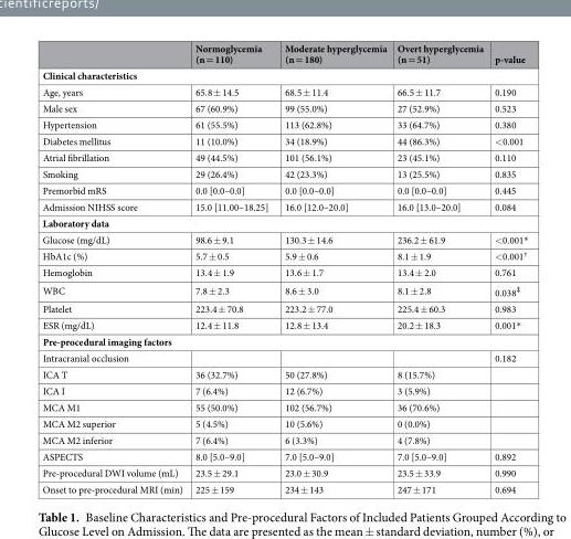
<table><thead><tr><td></td><td>Normoglycemia (n = 110)</td><td>Moderate hyperglycemia (n = 180)</td><td>Overt hyperglycemia (n = 51)</td><td>p-value</td></tr></thead><tbody><tr><td colspan="5">Clinical characteristics</td></tr><tr><td>Age, years</td><td>65.8 ± 14.5</td><td>68.5 ± 11.4</td><td>66.5 ± 11.7</td><td>0.190</td></tr><tr><td>Male sex</td><td>67 (60.9%)</td><td>99 (55.0%)</td><td>27 (52.9%)</td><td>0.523</td></tr><tr><td>Hypertension</td><td>61 (55.5%)</td><td>113 (62.8%)</td><td>33 (64.7%)</td><td>0.380</td></tr><tr><td>Diabetes mellitus</td><td>11 (10.0%)</td><td>34 (18.9%)</td><td>44 (86.3%)</td><td>&lt;0.001</td></tr><tr><td>Atrial fibrillation</td><td>49 (44.5%)</td><td>101 (56.1%)</td><td>23 (45.1%)</td><td>0.110</td></tr><tr><td>Smoking</td><td>29 (26.4%)</td><td>42 (23.3%)</td><td>13 (25.5%)</td><td>0.835</td></tr><tr><td>Premorbid mRS</td><td>0.0 [0.0–0.0]</td><td>0.0 [0.0–0.0]</td><td>0.0 [0.0–0.0]</td><td>0.445</td></tr><tr><td>Admission NIHSS score</td><td>15.0 [11.00–18.25]</td><td>16.0 [12.0–20.0]</td><td>16.0 [13.0–20.0]</td><td>0.084</td></tr><tr><td colspan="5">Laboratory data</td></tr><tr><td>Glucose (mg/dL)</td><td>98.6 ± 9.1</td><td>130.3 ± 14.6</td><td>236.2 ± 61.9</td><td>&lt;0.001*</td></tr><tr><td>HbA1c (%)</td><td>5.7 ± 0.5</td><td>5.9 ± 0.6</td><td>8.1 ± 1.9</td><td>&lt;0.001<sup>†</sup></td></tr><tr><td>Hemoglobin</td><td>13.4 ± 1.9</td><td>13.6 ± 1.7</td><td>13.4 ± 2.0</td><td>0.761</td></tr><tr><td>WBC</td><td>7.8 ± 2.3</td><td>8.6 ± 3.0</td><td>8.1 ± 2.8</td><td>0.038<sup>‡</sup></td></tr><tr><td>Platelet</td><td>223.4 ± 70.8</td><td>223.2 ± 77.0</td><td>225.4 ± 60.3</td><td>0.983</td></tr><tr><td>ESR (mg/dL)</td><td>12.4 ± 11.8</td><td>12.8 ± 13.4</td><td>20.2 ± 18.3</td><td>0.001*</td></tr><tr><td colspan="5">Pre-procedural imaging factors</td></tr><tr><td>Intracranial occlusion</td><td></td><td></td><td></td><td>0.182</td></tr><tr><td>ICA T</td><td>36 (32.7%)</td><td>50 (27.8%)</td><td>8 (15.7%)</td><td></td></tr><tr><td>ICA I</td><td>7 (6.4%)</td><td>12 (6.7%)</td><td>3 (5.9%)</td><td></td></tr><tr><td>MCA M1</td><td>55 (50.0%)</td><td>102 (56.7%)</td><td>36 (70.6%)</td><td></td></tr><tr><td>MCA M2 superior</td><td>5 (4.5%)</td><td>10 (5.6%)</td><td>0 (0.0%)</td><td></td></tr><tr><td>MCA M2 inferior</td><td>7 (6.4%)</td><td>6 (3.3%)</td><td>4 (7.8%)</td><td></td></tr><tr><td>ASPECTS</td><td>8.0 [5.0–9.0]</td><td>7.0 [5.0–9.0]</td><td>7.0 [5.0–9.0]</td><td>0.892</td></tr><tr><td>Pre-procedural DWI volume (mL)</td><td>23.5 ± 29.1</td><td>23.0 ± 30.9</td><td>23.5 ± 33.9</td><td>0.990</td></tr><tr><td>Onset to pre-procedural MRI (min)</td><td>225 ± 159</td><td>234 ± 143</td><td>247 ± 171</td><td>0.694</td></tr></tbody></table>